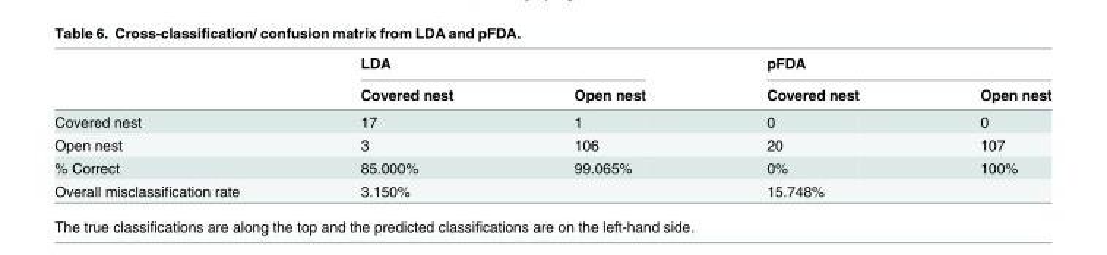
<table><thead><tr><td rowspan="2"></td><td colspan="2">LDA</td><td colspan="2">pFDA</td></tr><tr><td>Covered nest</td><td>Open nest</td><td>Covered nest</td><td>Open nest</td></tr></thead><tbody><tr><td>Covered nest</td><td>17</td><td>1</td><td>0</td><td>0</td></tr><tr><td>Open nest</td><td>3</td><td>106</td><td>20</td><td>107</td></tr><tr><td>% Correct</td><td>85.000%</td><td>99.065%</td><td>0%</td><td>100%</td></tr><tr><td>Overall misclassification rate</td><td colspan="2">3.150%</td><td colspan="2">15.748%</td></tr></tbody></table>